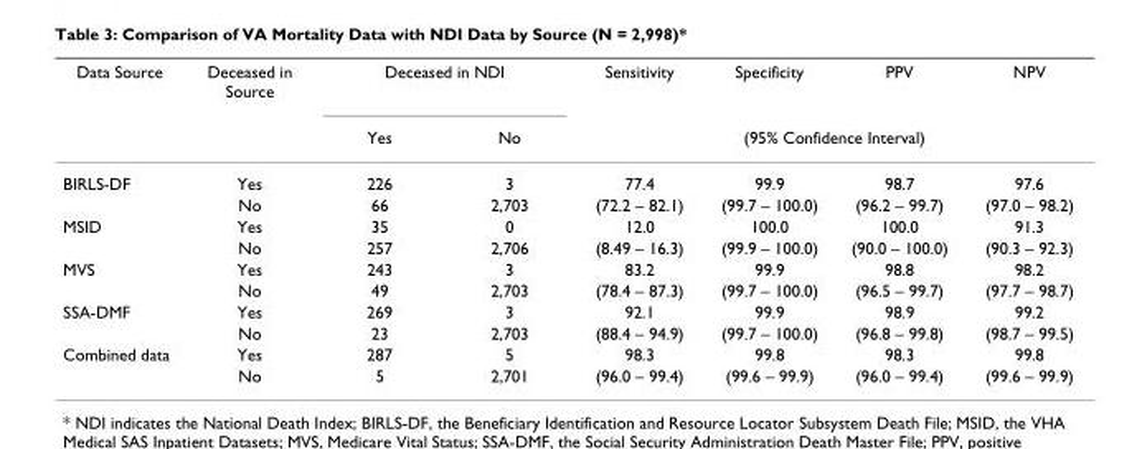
<table><thead><tr><td rowspan="2">Data Source</td><td rowspan="2">Deceased in Source</td><td colspan="2">Deceased in NDI</td><td rowspan="2">Sensitivity</td><td>Specificity</td><td>PPV</td><td rowspan="2">NPV</td></tr><tr><td>Yes</td><td>No</td><td colspan="2">(95% Confidence Interval)</td></tr></thead><tbody><tr><td rowspan="2">BIRLS-DF</td><td>Yes</td><td>226</td><td>3</td><td>77.4</td><td>99.9</td><td>98.7</td><td>97.6</td></tr><tr><td>No</td><td>66</td><td>2,703</td><td>(72.2 – 82.1)</td><td>(99.7 – 100.0)</td><td>(96.2 – 99.7)</td><td>(97.0 – 98.2)</td></tr><tr><td rowspan="2">MSID</td><td>Yes</td><td>35</td><td>0</td><td>12.0</td><td>100.0</td><td>100.0</td><td>91.3</td></tr><tr><td>No</td><td>257</td><td>2,706</td><td>(8.49 – 16.3)</td><td>(99.9 – 100.0)</td><td>(90.0 – 100.0)</td><td>(90.3 – 92.3)</td></tr><tr><td rowspan="2">MVS</td><td>Yes</td><td>243</td><td>3</td><td>83.2</td><td>99.9</td><td>98.8</td><td>98.2</td></tr><tr><td>No</td><td>49</td><td>2,703</td><td>(78.4 – 87.3)</td><td>(99.7 – 100.0)</td><td>(96.5 – 99.7)</td><td>(97.7 – 98.7)</td></tr><tr><td rowspan="2">SSA-DMF</td><td>Yes</td><td>269</td><td>3</td><td>92.1</td><td>99.9</td><td>98.9</td><td>99.2</td></tr><tr><td>No</td><td>23</td><td>2,703</td><td>(88.4 – 94.9)</td><td>(99.7 – 100.0)</td><td>(96.8 – 99.8)</td><td>(98.7 – 99.5)</td></tr><tr><td rowspan="2">Combined data</td><td>Yes</td><td>287</td><td>5</td><td>98.3</td><td>99.8</td><td>98.3</td><td>99.8</td></tr><tr><td>No</td><td>5</td><td>2,701</td><td>(96.0 – 99.4)</td><td>(99.6 – 99.9)</td><td>(96.0 – 99.4)</td><td>(99.6 – 99.9)</td></tr></tbody></table>